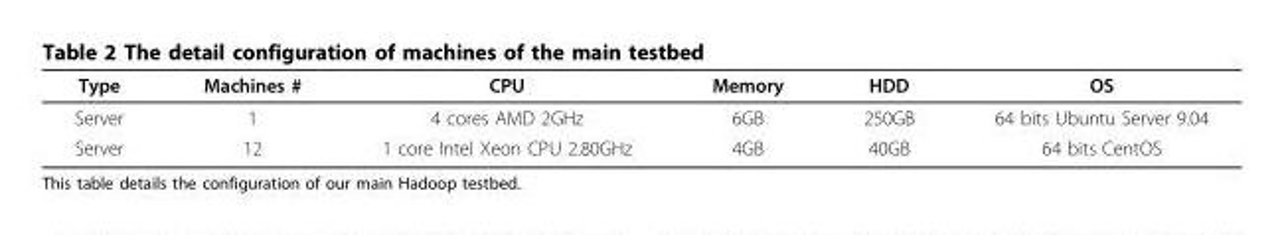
<table><thead><tr><td>Type</td><td>Machines #</td><td>CPU</td><td>Memory</td><td>HDD</td><td>OS</td></tr></thead><tbody><tr><td>Server</td><td>1</td><td>4 cores AMD 2GHz</td><td>6GB</td><td>250GB</td><td>64 bits Ubuntu Server 9.04</td></tr><tr><td>Server</td><td>12</td><td>1 core Intel Xeon CPU 2.80GHz</td><td>4GB</td><td>40GB</td><td>64 bits CentOS</td></tr></tbody></table>